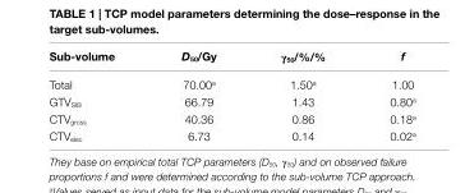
<table><thead><tr><td>sub-volume</td><td>D<sub>50</sub>/gy</td><td>γ<sub>50</sub>/%/%</td><td>f</td></tr></thead><tbody><tr><td>Total</td><td>70.00<sup>a</sup></td><td>1.50<sup>a</sup></td><td>1.00</td></tr><tr><td>GTV<sub>SIB</sub></td><td>66.79</td><td>1.43</td><td>0.80<sup>a</sup></td></tr><tr><td>CTV<sub>gross</sub></td><td>40.36</td><td>0.86</td><td>0.18<sup>a</sup></td></tr><tr><td>CTV<sub>elec</sub></td><td>6.73</td><td>0.14</td><td>0.02<sup>a</sup></td></tr></tbody></table>